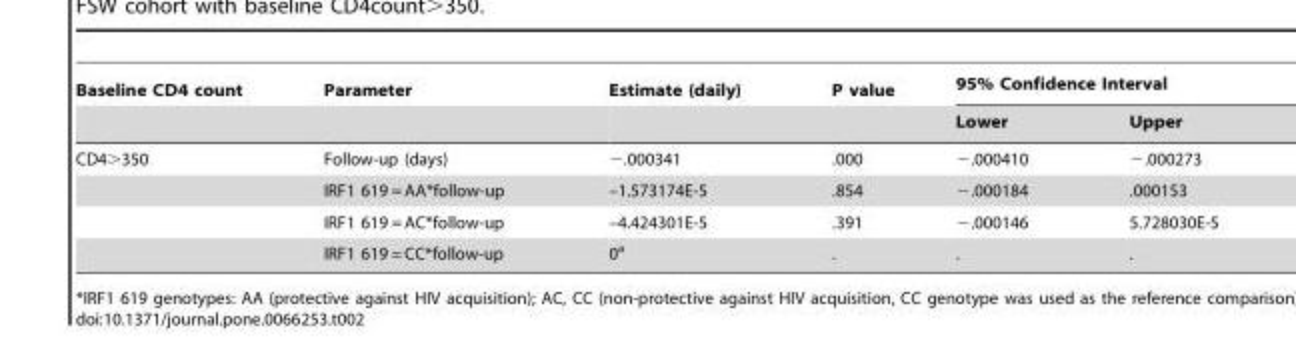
<table><thead><tr><td rowspan="2">Baseline CD4 count</td><td rowspan="2">Parameter</td><td rowspan="2">Estimate (daily)</td><td rowspan="2">P value</td><td colspan="2">95% Confidence Interval</td></tr><tr><td>Lower</td><td>Upper</td></tr></thead><tbody><tr><td rowspan="4">CD4&gt;350</td><td>Follow-up (days)</td><td>−.000341</td><td>.000</td><td>−.000410</td><td>−.000273</td></tr><tr><td>IRF1 619 = AA*follow-up</td><td>–1.573174E-5</td><td>.854</td><td>−.000184</td><td>.000153</td></tr><tr><td>IRF1 619 = AC*follow-up</td><td>–4.424301E-5</td><td>.391</td><td>−.000146</td><td>5.728030E-5</td></tr><tr><td>IRF1 619 = CC*follow-up</td><td>0<sup>a</sup></td><td>.</td><td>.</td><td>.</td></tr></tbody></table>